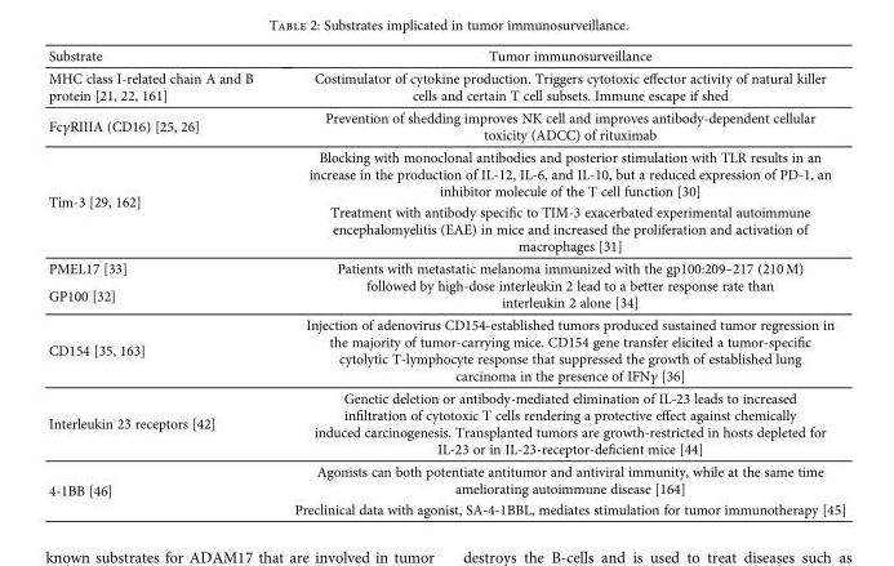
<table><thead><tr><td>Substrate</td><td>Tumor immunosurveillance</td></tr></thead><tbody><tr><td>MHC class I-related chain A and B protein [21, 22, 161]</td><td>Costimulator of cytokine production. Triggers cytotoxic effector activity of natural killer cells and certain T cell subsets. Immune escape if shed</td></tr><tr><td>FcγRIIIA (CD16) [25, 26]</td><td>Prevention of shedding improves NK cell and improves antibody-dependent cellular toxicity (ADCC) of rituximab</td></tr><tr><td rowspan="2">Tim-3 [29, 162]</td><td>Blocking with monoclonal antibodies and posterior stimulation with TLR results in an increase in the production of IL-12, IL-6, and IL-10, but a reduced expression of PD-1, an inhibitor molecule of the T cell function [30]</td></tr><tr><td>Treatment with antibody specific to TIM-3 exacerbated experimental autoimmune encephalomyelitis (EAE) in mice and increased the proliferation and activation of macrophages [31]</td></tr><tr><td>PMEL17 [33]</td><td rowspan="2">Patients with metastatic melanoma immunized with the gp100:209–217 (210 M) followed by high-dose interleukin 2 lead to a better response rate than interleukin 2 alone [34]</td></tr><tr><td>GP100 [32]</td></tr><tr><td>CD154 [35, 163]</td><td>Injection of adenovirus CD154-established tumors produced sustained tumor regression in the majority of tumor-carrying mice. CD154 gene transfer elicited a tumor-specific cytolytic T-lymphocyte response that suppressed the growth of established lung carcinoma in the presence of IFNγ [36]</td></tr><tr><td>Interleukin 23 receptors [42]</td><td>Genetic deletion or antibody-mediated elimination of IL-23 leads to increased infiltration of cytotoxic T cells rendering a protective effect against chemically induced carcinogenesis. Transplanted tumors are growth-restricted in hosts depleted for IL-23 or in IL-23-receptor-deficient mice [44]</td></tr><tr><td rowspan="2">4-1BB [46]</td><td>Agonists can both potentiate antitumor and antiviral immunity, while at the same time ameliorating autoimmune disease [164]</td></tr><tr><td>Preclinical data with agonist, SA-4-1BBL, mediates stimulation for tumor immunotherapy [45]</td></tr></tbody></table>